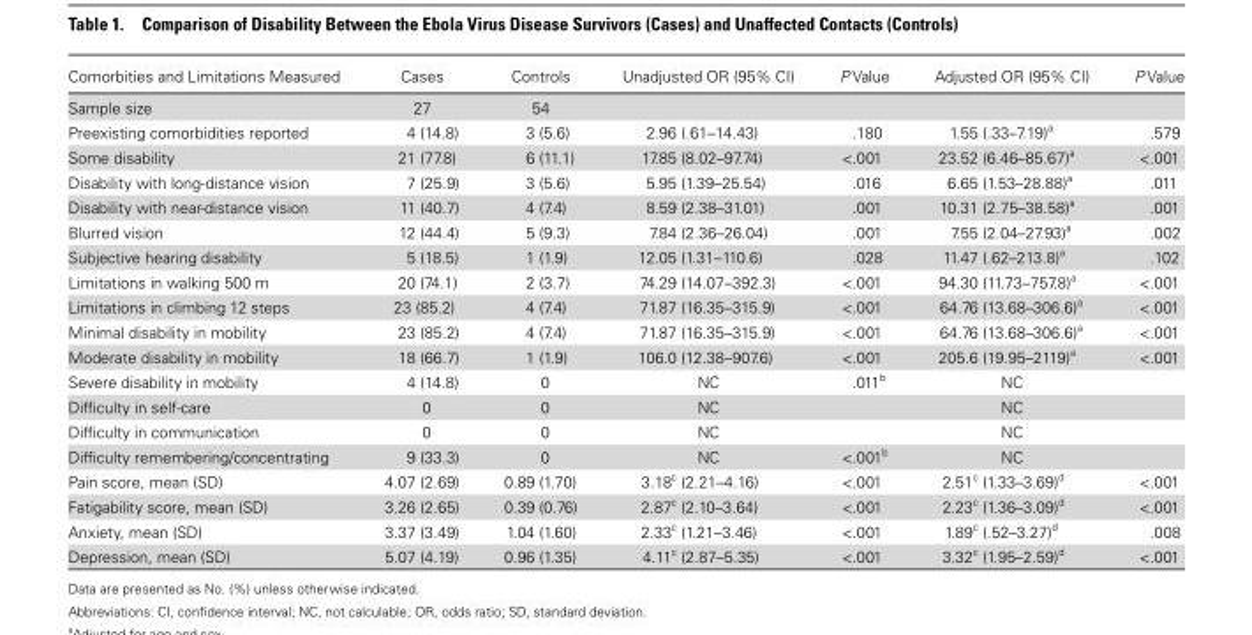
<table><thead><tr><td>Comorbities and Limitations Measured</td><td>Cases</td><td>Controls</td><td>Unadjusted OR (95% CI)</td><td>P Value</td><td>Adjusted OR (95% CI)</td><td>P Value</td></tr></thead><tbody><tr><td>Sample size</td><td>27</td><td>54</td><td></td><td></td><td></td><td></td></tr><tr><td>Preexisting comorbidities reported</td><td>4 (14.8)</td><td>3 (5.6)</td><td>2.96 (.61–14.43)</td><td>.180</td><td>1.55 (.33–7.19)<sup>a</sup></td><td>.579</td></tr><tr><td>Some disability</td><td>21 (77.8)</td><td>6 (11.1)</td><td>17.85 (8.02–97.74)</td><td>&lt;.001</td><td>23.52 (6.46–85.67)<sup>a</sup></td><td>&lt;.001</td></tr><tr><td>Disability with long-distance vision</td><td>7 (25.9)</td><td>3 (5.6)</td><td>5.95 (1.39–25.54)</td><td>.016</td><td>6.65 (1.53–28.88)<sup>a</sup></td><td>.011</td></tr><tr><td>Disability with near-distance vision</td><td>11 (40.7)</td><td>4 (7.4)</td><td>8.59 (2.38–31.01)</td><td>.001</td><td>10.31 (2.75–38.58)<sup>a</sup></td><td>.001</td></tr><tr><td>Blurred vision</td><td>12 (44.4)</td><td>5 (9.3)</td><td>7.84 (2.36–26.04)</td><td>.001</td><td>7.55 (2.04–27.93)<sup>a</sup></td><td>.002</td></tr><tr><td>Subjective hearing disability</td><td>5 (18.5)</td><td>1 (1.9)</td><td>12.05 (1.31–110.6)</td><td>.028</td><td>11.47 (.62–213.8)<sup>a</sup></td><td>.102</td></tr><tr><td>Limitations in walking 500 m</td><td>20 (74.1)</td><td>2 (3.7)</td><td>74.29 (14.07–392.3)</td><td>&lt;.001</td><td>94.30 (11.73–757.8)<sup>a</sup></td><td>&lt;.001</td></tr><tr><td>Limitations in climbing 12 steps</td><td>23 (85.2)</td><td>4 (7.4)</td><td>71.87 (16.35–315.9)</td><td>&lt;.001</td><td>64.76 (13.68–306.6)<sup>a</sup></td><td>&lt;.001</td></tr><tr><td>Minimal disability in mobility</td><td>23 (85.2)</td><td>4 (7.4)</td><td>71.87 (16.35–315.9)</td><td>&lt;.001</td><td>64.76 (13.68–306.6)<sup>a</sup></td><td>&lt;.001</td></tr><tr><td>Moderate disability in mobility</td><td>18 (66.7)</td><td>1 (1.9)</td><td>106.0 (12.38–907.6)</td><td>&lt;.001</td><td>205.6 (19.95–2119)<sup>a</sup></td><td>&lt;.001</td></tr><tr><td>Severe disability in mobility</td><td>4 (14.8)</td><td>0</td><td>NC</td><td>.011<sup>b</sup></td><td>NC</td><td></td></tr><tr><td>Difficulty in self-care</td><td>0</td><td>0</td><td>NC</td><td></td><td>NC</td><td></td></tr><tr><td>Difficulty in communication</td><td>0</td><td>0</td><td>NC</td><td></td><td>NC</td><td></td></tr><tr><td>Difficulty remembering/concentrating</td><td>9 (33.3)</td><td>0</td><td>NC</td><td>&lt;.001<sup>b</sup></td><td>NC</td><td></td></tr><tr><td>Pain score, mean (SD)</td><td>4.07 (2.69)</td><td>0.89 (1.70)</td><td>3.18<sup>c</sup> (2.21–4.16)</td><td>&lt;.001</td><td>2.51<sup>c</sup> (1.33–3.69)<sup>d</sup></td><td>&lt;.001</td></tr><tr><td>Fatigability score, mean (SD)</td><td>3.26 (2.65)</td><td>0.39 (0.76)</td><td>2.87<sup>c</sup> (2.10–3.64)</td><td>&lt;.001</td><td>2.23<sup>c</sup> (1.36–3.09)<sup>d</sup></td><td>&lt;.001</td></tr><tr><td>Anxiety, mean (SD)</td><td>3.37 (3.49)</td><td>1.04 (1.60)</td><td>2.33<sup>c</sup> (1.21–3.46)</td><td>&lt;.001</td><td>1.89<sup>c</sup> (.52–3.27)<sup>d</sup></td><td>.008</td></tr><tr><td>Depression, mean (SD)</td><td>5.07 (4.19)</td><td>0.96 (1.35)</td><td>4.11<sup>c</sup> (2.87–5.35)</td><td>&lt;.001</td><td>3.32<sup>c</sup> (1.95–2.59)<sup>d</sup></td><td>&lt;.001</td></tr></tbody></table>